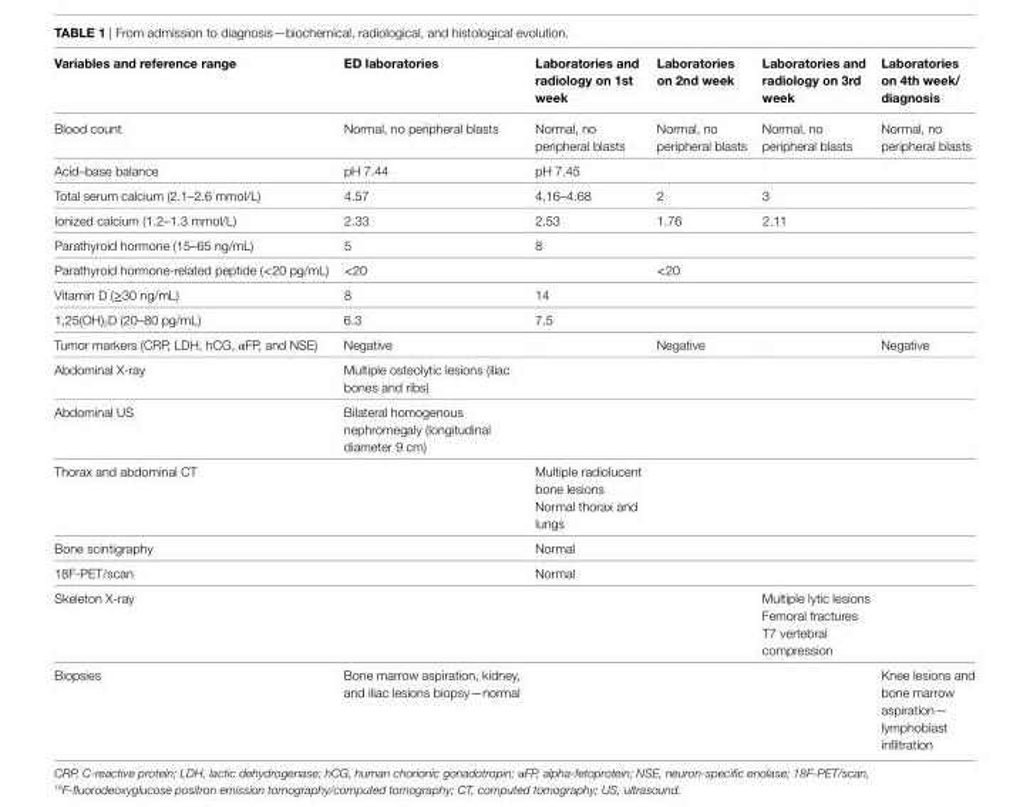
<table><thead><tr><td>Variables and reference range</td><td>eD laboratories</td><td>laboratories and radiology on 1st week</td><td>laboratories on 2nd week</td><td>laboratories and radiology on 3rd week</td><td>laboratories on 4th week/ diagnosis</td></tr></thead><tbody><tr><td>Blood count</td><td>Normal, no peripheral blasts</td><td>Normal, no peripheral blasts</td><td>Normal, no peripheral blasts</td><td>Normal, no peripheral blasts</td><td>Normal, no peripheral blasts</td></tr><tr><td>Acid–base balance</td><td>pH 7.44</td><td>pH 7.45</td><td></td><td></td><td></td></tr><tr><td>Total serum calcium (2.1–2.6 mmol/L)</td><td>4.57</td><td>4.16–4.68</td><td>2</td><td>3</td><td></td></tr><tr><td>Ionized calcium (1.2–1.3 mmol/L)</td><td>2.33</td><td>2.53</td><td>1.76</td><td>2.11</td><td></td></tr><tr><td>Parathyroid hormone (15–65 ng/mL)</td><td>5</td><td>8</td><td></td><td></td><td></td></tr><tr><td>Parathyroid hormone-related peptide (&lt;20 pg/mL)</td><td>&lt;20</td><td></td><td>&lt;20</td><td></td><td></td></tr><tr><td>Vitamin D (≥30 ng/mL)</td><td>8</td><td>14</td><td></td><td></td><td></td></tr><tr><td>1,25(OH)<sub>2</sub>D (20–80 pg/mL)</td><td>6.3</td><td>7.5</td><td></td><td></td><td></td></tr><tr><td>Tumor markers (CRP, LDH, hCG, αFP, and NSE)</td><td>Negative</td><td></td><td>Negative</td><td></td><td>Negative</td></tr><tr><td>Abdominal X-ray</td><td>Multiple osteolytic lesions (iliac bones and ribs)</td><td></td><td></td><td></td><td></td></tr><tr><td>Abdominal US</td><td>Bilateral homogenous nephromegaly (longitudinal diameter 9 cm)</td><td></td><td></td><td></td><td></td></tr><tr><td>Thorax and abdominal CT</td><td></td><td>Multiple radiolucent bone lesions Normal thorax and lungs</td><td></td><td></td><td></td></tr><tr><td>Bone scintigraphy</td><td></td><td>Normal</td><td></td><td></td><td></td></tr><tr><td>18F-PET/scan</td><td></td><td>Normal</td><td></td><td></td><td></td></tr><tr><td>Skeleton X-ray</td><td></td><td></td><td></td><td>Multiple lytic lesions Femoral fractures T7 vertebral compression</td><td></td></tr><tr><td>Biopsies</td><td>Bone marrow aspiration, kidney, and iliac lesions biopsy—normal</td><td></td><td></td><td></td><td>Knee lesions and bone marrow aspiration— lymphoblast infiltration</td></tr></tbody></table>